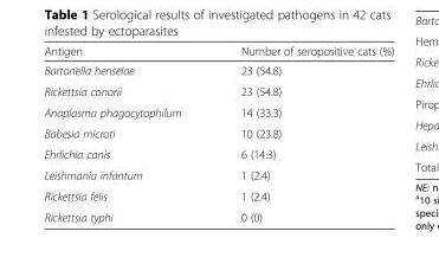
<table><thead><tr><td>Antigen</td><td>Number of seropositive cats (%)</td></tr></thead><tbody><tr><td>Bartonella henselae</td><td>23 (54.8)</td></tr><tr><td>Rickettsia conorii</td><td>23 (54.8)</td></tr><tr><td>Anaplasma phagocytophilum</td><td>14 (33.3)</td></tr><tr><td>Babesia microti</td><td>10 (23.8)</td></tr><tr><td>Ehrlichia canis</td><td>6 (14.3)</td></tr><tr><td>Leishmania infantum</td><td>1 (2.4)</td></tr><tr><td>Rickettsia felis</td><td>1 (2.4)</td></tr><tr><td>Rickettsia typhi</td><td>0 (0)</td></tr></tbody></table>